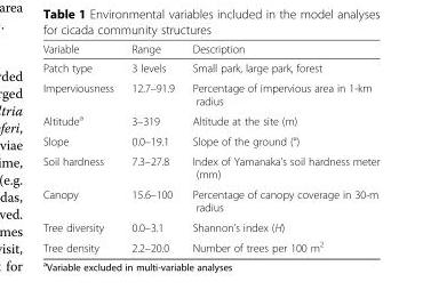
<table><thead><tr><td>Variable</td><td>Range</td><td>Description</td></tr></thead><tbody><tr><td>Patch type</td><td>3 levels</td><td>Small park, large park, forest</td></tr><tr><td>Imperviousness</td><td>12.7–91.9</td><td>Percentage of impervious area in 1-km radius</td></tr><tr><td>Altitude<sup>a</sup></td><td>3–319</td><td>Altitude at the site (m)</td></tr><tr><td>Slope</td><td>0.0–19.1</td><td>Slope of the ground (°)</td></tr><tr><td>Soil hardness</td><td>7.3–27.8</td><td>Index of Yamanaka&#x27;s soil hardness meter (mm)</td></tr><tr><td>Canopy</td><td>15.6–100</td><td>Percentage of canopy coverage in 30-m radius</td></tr><tr><td>Tree diversity</td><td>0.0–3.1</td><td>Shannon’s index (H)</td></tr><tr><td>Tree density</td><td>2.2–20.0</td><td>Number of trees per 100 m<sup>2</sup></td></tr></tbody></table>